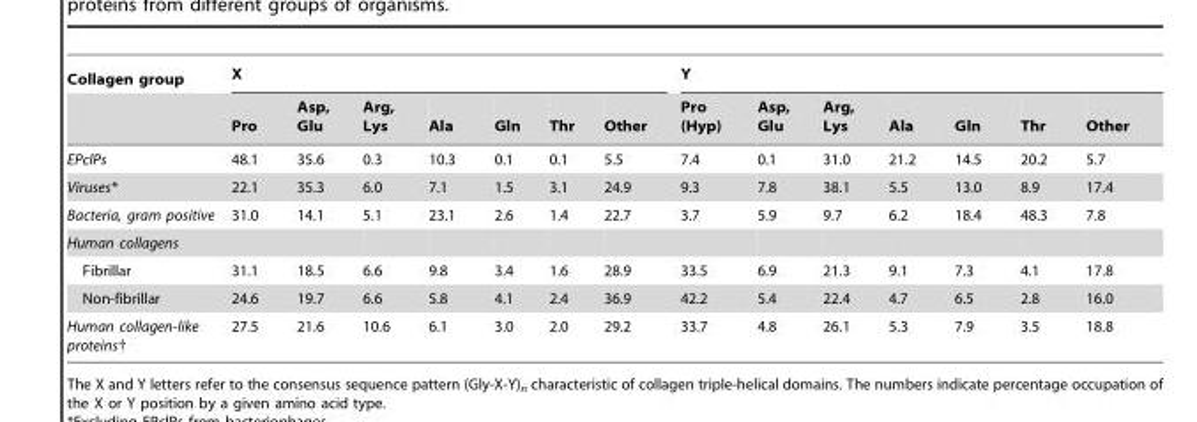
<table><thead><tr><td rowspan="2">Collagen group</td><td colspan="7">X</td><td colspan="7">Y</td></tr><tr><td>Pro</td><td>Asp, Glu</td><td>Arg, Lys</td><td>Ala</td><td>Gln</td><td>Thr</td><td>Other</td><td>Pro (Hyp)</td><td>Asp, Glu</td><td>Arg, Lys</td><td>Ala</td><td>Gln</td><td>Thr</td><td>Other</td></tr></thead><tbody><tr><td>EPclPs</td><td>48.1</td><td>35.6</td><td>0.3</td><td>10.3</td><td>0.1</td><td>0.1</td><td>5.5</td><td>7.4</td><td>0.1</td><td>31.0</td><td>21.2</td><td>14.5</td><td>20.2</td><td>5.7</td></tr><tr><td>Viruses*</td><td>22.1</td><td>35.3</td><td>6.0</td><td>7.1</td><td>1.5</td><td>3.1</td><td>24.9</td><td>9.3</td><td>7.8</td><td>38.1</td><td>5.5</td><td>13.0</td><td>8.9</td><td>17.4</td></tr><tr><td>Bacteria, gram positive</td><td>31.0</td><td>14.1</td><td>5.1</td><td>23.1</td><td>2.6</td><td>1.4</td><td>22.7</td><td>3.7</td><td>5.9</td><td>9.7</td><td>6.2</td><td>18.4</td><td>48.3</td><td>7.8</td></tr><tr><td colspan="15">Human collagens</td></tr><tr><td>Fibrillar</td><td>31.1</td><td>18.5</td><td>6.6</td><td>9.8</td><td>3.4</td><td>1.6</td><td>28.9</td><td>33.5</td><td>6.9</td><td>21.3</td><td>9.1</td><td>7.3</td><td>4.1</td><td>17.8</td></tr><tr><td>Non-fibrillar</td><td>24.6</td><td>19.7</td><td>6.6</td><td>5.8</td><td>4.1</td><td>2.4</td><td>36.9</td><td>42.2</td><td>5.4</td><td>22.4</td><td>4.7</td><td>6.5</td><td>2.8</td><td>16.0</td></tr><tr><td>Human collagen-like proteins†</td><td>27.5</td><td>21.6</td><td>10.6</td><td>6.1</td><td>3.0</td><td>2.0</td><td>29.2</td><td>33.7</td><td>4.8</td><td>26.1</td><td>5.3</td><td>7.9</td><td>3.5</td><td>18.8</td></tr></tbody></table>